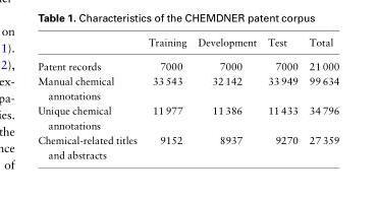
<table><thead><tr><td></td><td>Training</td><td>Development</td><td>Test</td><td>Total</td></tr></thead><tbody><tr><td>Patent records</td><td>7000</td><td>7000</td><td>7000</td><td>21 000</td></tr><tr><td>Manual chemical annotations</td><td>33 543</td><td>32 142</td><td>33 949</td><td>99 634</td></tr><tr><td>Unique chemical annotations</td><td>11 977</td><td>11 386</td><td>11 433</td><td>34 796</td></tr><tr><td>Chemical-related titles and abstracts</td><td>9152</td><td>8937</td><td>9270</td><td>27 359</td></tr></tbody></table>